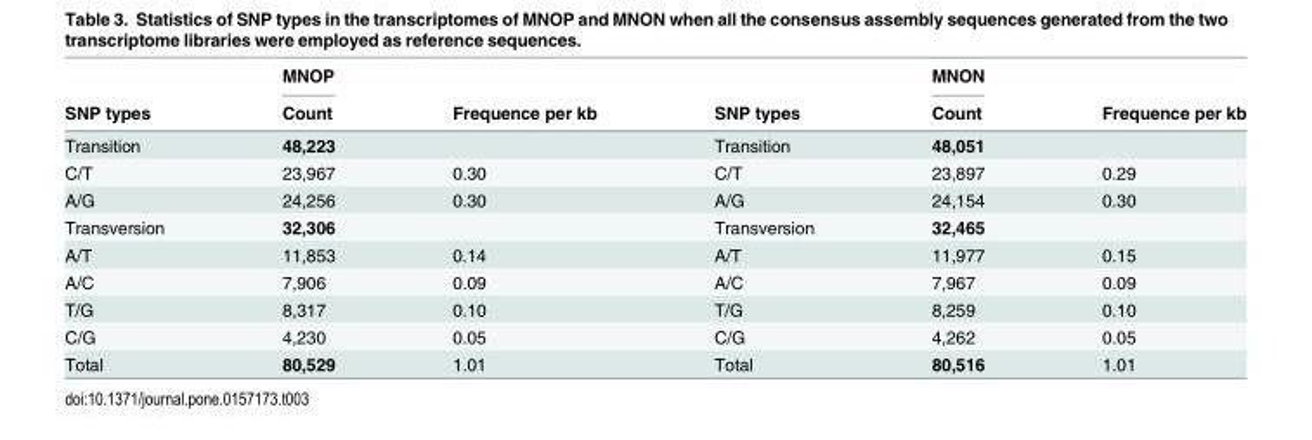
<table><thead><tr><td rowspan="2">SNP types</td><td rowspan="2">MNOP Count</td><td rowspan="2">Frequence per kb</td><td rowspan="2">SNP types</td><td rowspan="2">MNON Count</td><td rowspan="2">Frequence per kb</td></tr><tr></tr></thead><tbody><tr><td>Transition</td><td>48,223</td><td></td><td>Transition</td><td>48,051</td><td></td></tr><tr><td>C/T</td><td>23,967</td><td>0.30</td><td>C/T</td><td>23,897</td><td>0.29</td></tr><tr><td>A/G</td><td>24,256</td><td>0.30</td><td>A/G</td><td>24,154</td><td>0.30</td></tr><tr><td>Transversion</td><td>32,306</td><td></td><td>Transversion</td><td>32,465</td><td></td></tr><tr><td>A/T</td><td>11,853</td><td>0.14</td><td>A/T</td><td>11,977</td><td>0.15</td></tr><tr><td>A/C</td><td>7,906</td><td>0.09</td><td>A/C</td><td>7,967</td><td>0.09</td></tr><tr><td>T/G</td><td>8,317</td><td>0.10</td><td>T/G</td><td>8,259</td><td>0.10</td></tr><tr><td>C/G</td><td>4,230</td><td>0.05</td><td>C/G</td><td>4,262</td><td>0.05</td></tr><tr><td>Total</td><td>80,529</td><td>1.01</td><td>Total</td><td>80,516</td><td>1.01</td></tr></tbody></table>